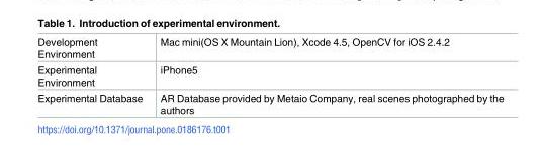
<table><tbody><tr><td>Development Environment</td><td>Mac mini(OS X Mountain Lion), Xcode 4.5, OpenCV for iOS 2.4.2</td></tr><tr><td>Experimental Environment</td><td>iPhone5</td></tr><tr><td>Experimental Database</td><td>AR Database provided by Metaio Company, real scenes photographed by the authors</td></tr></tbody></table>